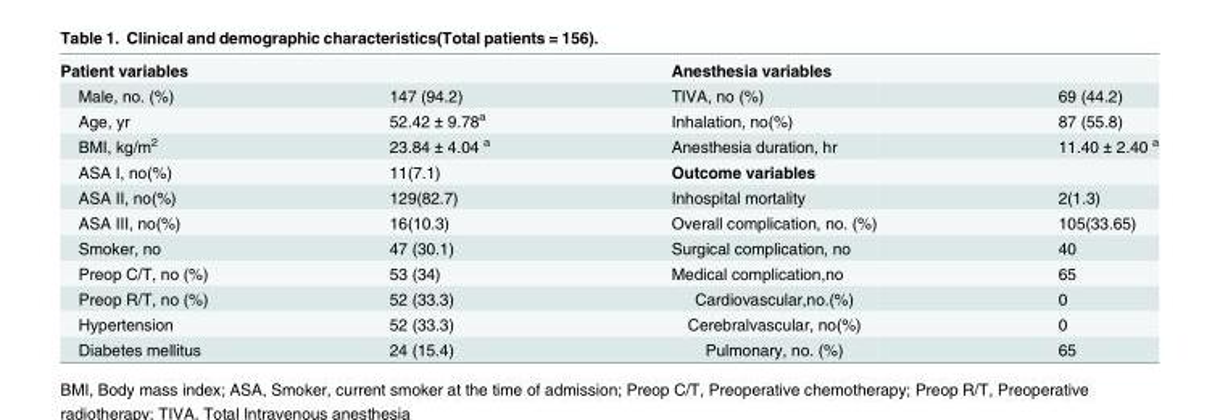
<table><tbody><tr><td colspan="2">Patient variables</td><td colspan="2">Anesthesia variables</td></tr><tr><td>Male, no. (%)</td><td>147 (94.2)</td><td>TIVA, no (%)</td><td>69 (44.2)</td></tr><tr><td>Age, yr</td><td>52.42 ± 9.78<sup>a</sup></td><td>Inhalation, no(%)</td><td>87 (55.8)</td></tr><tr><td>BMI, kg/m<sup>2</sup></td><td>23.84 ± 4.04 <sup>a</sup></td><td>Anesthesia duration, hr</td><td>11.40 ± 2.40 <sup>a</sup></td></tr><tr><td>ASA I, no(%)</td><td>11(7.1)</td><td colspan="2">Outcome variables</td></tr><tr><td>ASA II, no(%)</td><td>129(82.7)</td><td>Inhospital mortality</td><td>2(1.3)</td></tr><tr><td>ASA III, no(%)</td><td>16(10.3)</td><td>Overall complication, no. (%)</td><td>105(33.65)</td></tr><tr><td>Smoker, no</td><td>47 (30.1)</td><td>Surgical complication, no</td><td>40</td></tr><tr><td>Preop C/T, no (%)</td><td>53 (34)</td><td>Medical complication,no</td><td>65</td></tr><tr><td>Preop R/T, no (%)</td><td>52 (33.3)</td><td>Cardiovascular,no.(%)</td><td>0</td></tr><tr><td>Hypertension</td><td>52 (33.3)</td><td>Cerebralvascular, no(%)</td><td>0</td></tr><tr><td>Diabetes mellitus</td><td>24 (15.4)</td><td>Pulmonary, no. (%)</td><td>65</td></tr></tbody></table>